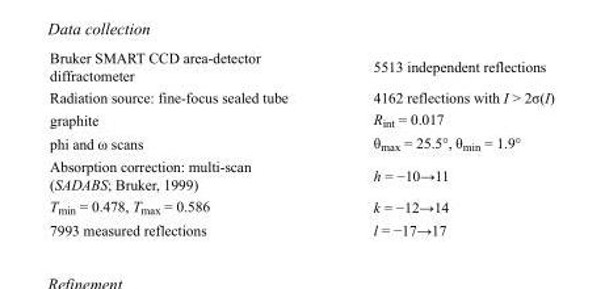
<table><tbody><tr><td>Bruker SMART CCD area-detector diffractometer</td><td>5513 independent reflections</td></tr><tr><td>Radiation source: fine-focus sealed tube</td><td>4162 reflections with I &gt; 2σ(I)</td></tr><tr><td>graphite</td><td>R<sub>int</sub> = 0.017</td></tr><tr><td>phi and ω scans</td><td>θ<sub>max</sub> = 25.5°, θ<sub>min</sub> = 1.9°</td></tr><tr><td>Absorption correction: multi-scan (SADABS; Bruker, 1999)</td><td>h = −10→11</td></tr><tr><td>T<sub>min</sub> = 0.478, T<sub>max</sub> = 0.586</td><td>k = −12→14</td></tr><tr><td>7993 measured reflections</td><td>l = −17→17</td></tr></tbody></table>